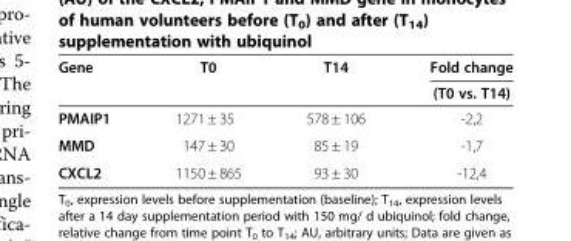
<table><thead><tr><td rowspan="2">Gene</td><td rowspan="2">T0</td><td rowspan="2">T14</td><td rowspan="2">Fold change (T0 vs. T14)</td></tr><tr></tr></thead><tbody><tr><td>PMAIP1</td><td>1271 ± 35</td><td>578 ± 106</td><td>-2,2</td></tr><tr><td>MMD</td><td>147 ± 30</td><td>85 ± 19</td><td>-1,7</td></tr><tr><td>CXCL2</td><td>1150 ± 865</td><td>93 ± 30</td><td>-12,4</td></tr></tbody></table>